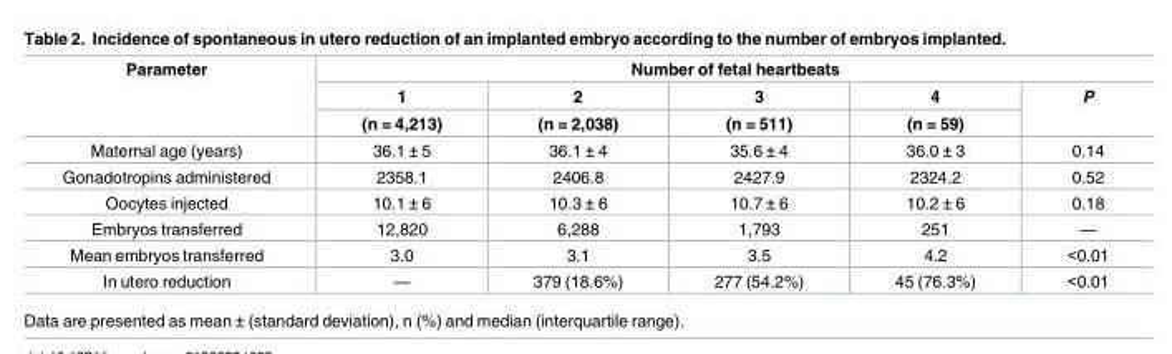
<table><thead><tr><td rowspan="3">Parameter</td><td colspan="5">Number of fetal heartbeats</td></tr><tr><td rowspan="2">1 (n = 4,213)</td><td rowspan="2">2 (n = 2,038)</td><td rowspan="2">3 (n = 511)</td><td rowspan="2">4 (n = 59)</td><td rowspan="2">P</td></tr><tr></tr></thead><tbody><tr><td>Maternal age (years)</td><td>36.1 ± 5</td><td>36.1 ± 4</td><td>35.6 ± 4</td><td>36.0 ± 3</td><td>0.14</td></tr><tr><td>Gonadotropins administered</td><td>2358.1</td><td>2406.8</td><td>2427.9</td><td>2324.2</td><td>0.52</td></tr><tr><td>Oocytes injected</td><td>10.1 ± 6</td><td>10.3 ± 6</td><td>10.7 ± 6</td><td>10.2 ± 6</td><td>0.18</td></tr><tr><td>Embryos transferred</td><td>12,820</td><td>6,288</td><td>1,793</td><td>251</td><td>—</td></tr><tr><td>Mean embryos transferred</td><td>3.0</td><td>3.1</td><td>3.5</td><td>4.2</td><td>&lt;0.01</td></tr><tr><td>In utero reduction</td><td>—</td><td>379 (18.6%)</td><td>277 (54.2%)</td><td>45 (76.3%)</td><td>&lt;0.01</td></tr></tbody></table>